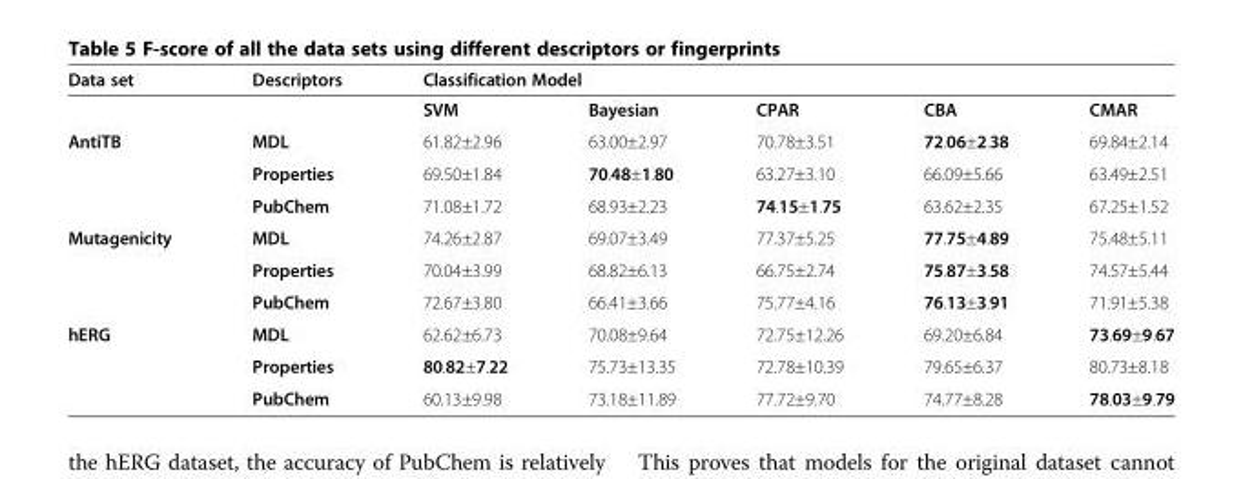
<table><thead><tr><td rowspan="2">Data set</td><td rowspan="2">Descriptors</td><td colspan="5">Classification Model</td></tr><tr><td>SVM</td><td>Bayesian</td><td>CPAR</td><td>CBA</td><td>CMAR</td></tr></thead><tbody><tr><td rowspan="3">AntiTB</td><td>MDL</td><td>61.82±2.96</td><td>63.00±2.97</td><td>70.78±3.51</td><td>72.06±2.38</td><td>69.84±2.14</td></tr><tr><td>Properties</td><td>69.50±1.84</td><td>70.48±1.80</td><td>63.27±3.10</td><td>66.09±5.66</td><td>63.49±2.51</td></tr><tr><td>PubChem</td><td>71.08±1.72</td><td>68.93±2.23</td><td>74.15±1.75</td><td>63.62±2.35</td><td>67.25±1.52</td></tr><tr><td rowspan="3">Mutagenicity</td><td>MDL</td><td>74.26±2.87</td><td>69.07±3.49</td><td>77.37±5.25</td><td>77.75±4.89</td><td>75.48±5.11</td></tr><tr><td>Properties</td><td>70.04±3.99</td><td>68.82±6.13</td><td>66.75±2.74</td><td>75.87±3.58</td><td>74.57±5.44</td></tr><tr><td>PubChem</td><td>72.67±3.80</td><td>66.41±3.66</td><td>75.77±4.16</td><td>76.13±3.91</td><td>71.91±5.38</td></tr><tr><td rowspan="3">hERG</td><td>MDL</td><td>62.62±6.73</td><td>70.08±9.64</td><td>72.75±12.26</td><td>69.20±6.84</td><td>73.69±9.67</td></tr><tr><td>Properties</td><td>80.82±7.22</td><td>75.73±13.35</td><td>72.78±10.39</td><td>79.65±6.37</td><td>80.73±8.18</td></tr><tr><td>PubChem</td><td>60.13±9.98</td><td>73.18±11.89</td><td>77.72±9.70</td><td>74.77±8.28</td><td>78.03±9.79</td></tr></tbody></table>